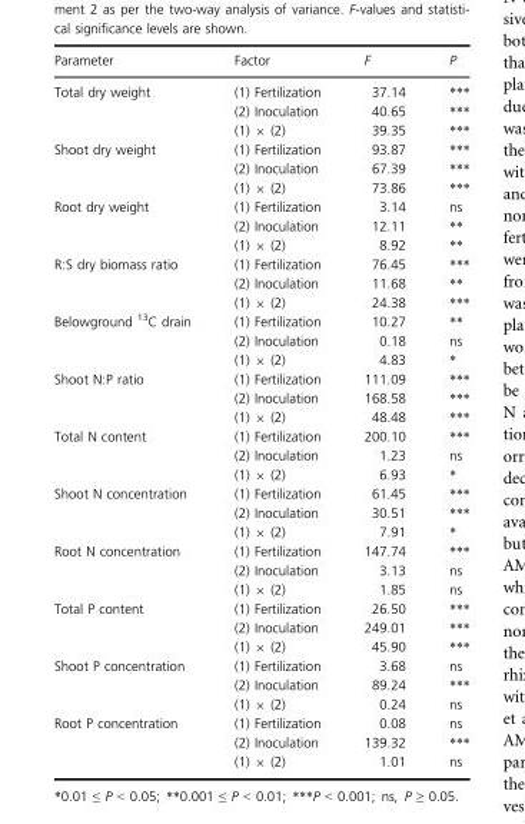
<table><thead><tr><td>Parameter</td><td>Factor</td><td>F</td><td>P</td></tr></thead><tbody><tr><td rowspan="3">Total dry weight</td><td>(1) Fertilization</td><td>37.14</td><td>***</td></tr><tr><td>(2) Inoculation</td><td>40.65</td><td>***</td></tr><tr><td>(1) × (2)</td><td>39.35</td><td>***</td></tr><tr><td rowspan="3">Shoot dry weight</td><td>(1) Fertilization</td><td>93.87</td><td>***</td></tr><tr><td>(2) Inoculation</td><td>67.39</td><td>***</td></tr><tr><td>(1) × (2)</td><td>73.86</td><td>***</td></tr><tr><td rowspan="3">Root dry weight</td><td>(1) Fertilization</td><td>3.14</td><td>ns</td></tr><tr><td>(2) Inoculation</td><td>12.11</td><td>**</td></tr><tr><td>(1) × (2)</td><td>8.92</td><td>**</td></tr><tr><td rowspan="3">R:S dry biomass ratio</td><td>(1) Fertilization</td><td>76.45</td><td>***</td></tr><tr><td>(2) Inoculation</td><td>11.68</td><td>**</td></tr><tr><td>(1) × (2)</td><td>24.38</td><td>***</td></tr><tr><td rowspan="3">Belowground <sup>13</sup>C drain</td><td>(1) Fertilization</td><td>10.27</td><td>**</td></tr><tr><td>(2) Inoculation</td><td>0.18</td><td>ns</td></tr><tr><td>(1) × (2)</td><td>4.83</td><td>*</td></tr><tr><td rowspan="3">Shoot N:P ratio</td><td>(1) Fertilization</td><td>111.09</td><td>***</td></tr><tr><td>(2) Inoculation</td><td>168.58</td><td>***</td></tr><tr><td>(1) × (2)</td><td>48.48</td><td>***</td></tr><tr><td rowspan="3">Total N content</td><td>(1) Fertilization</td><td>200.10</td><td>***</td></tr><tr><td>(2) Inoculation</td><td>1.23</td><td>ns</td></tr><tr><td>(1) × (2)</td><td>6.93</td><td>*</td></tr><tr><td rowspan="3">Shoot N concentration</td><td>(1) Fertilization</td><td>61.45</td><td>***</td></tr><tr><td>(2) Inoculation</td><td>30.51</td><td>***</td></tr><tr><td>(1) × (2)</td><td>7.91</td><td>*</td></tr><tr><td rowspan="3">Root N concentration</td><td>(1) Fertilization</td><td>147.74</td><td>***</td></tr><tr><td>(2) Inoculation</td><td>3.13</td><td>ns</td></tr><tr><td>(1) × (2)</td><td>1.85</td><td>ns</td></tr><tr><td rowspan="3">Total P content</td><td>(1) Fertilization</td><td>26.50</td><td>***</td></tr><tr><td>(2) Inoculation</td><td>249.01</td><td>***</td></tr><tr><td>(1) × (2)</td><td>45.90</td><td>***</td></tr><tr><td rowspan="3">Shoot P concentration</td><td>(1) Fertilization</td><td>3.68</td><td>ns</td></tr><tr><td>(2) Inoculation</td><td>89.24</td><td>***</td></tr><tr><td>(1) × (2)</td><td>0.24</td><td>ns</td></tr><tr><td rowspan="3">Root P concentration</td><td>(1) Fertilization</td><td>0.08</td><td>ns</td></tr><tr><td>(2) Inoculation</td><td>139.32</td><td>***</td></tr><tr><td>(1) × (2)</td><td>1.01</td><td>ns</td></tr></tbody></table>